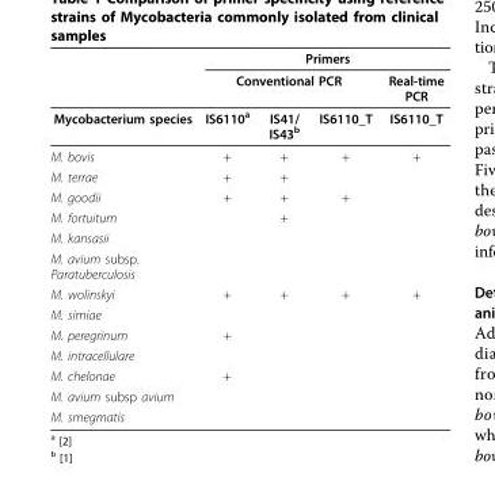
<table><thead><tr><td rowspan="3">Mycobacterium species</td><td colspan="4">Primers</td></tr><tr><td colspan="3">Conventional PCR</td><td rowspan="2">Real-time PCR IS6110_T</td></tr><tr><td>IS6110a</td><td>IS41/ IS43b</td><td>IS6110_T</td></tr></thead><tbody><tr><td>M. bovis</td><td>+</td><td>+</td><td>+</td><td>+</td></tr><tr><td>M. terrae</td><td>+</td><td>+</td><td></td><td></td></tr><tr><td>M. goodii</td><td>+</td><td>+</td><td>+</td><td></td></tr><tr><td>M. fortuitum</td><td></td><td>+</td><td></td><td></td></tr><tr><td colspan="5">M. kansasii</td></tr><tr><td colspan="5">M. avium subsp. Paratuberculosis</td></tr><tr><td>M. wolinskyi</td><td>+</td><td>+</td><td>+</td><td>+</td></tr><tr><td colspan="5">M. simiae</td></tr><tr><td>M. peregrinum</td><td>+</td><td></td><td></td><td></td></tr><tr><td colspan="5">M. intracellulare</td></tr><tr><td>M. chelonae</td><td>+</td><td></td><td></td><td></td></tr><tr><td colspan="5">M. avium subsp avium</td></tr><tr><td>M. smegmatis</td><td></td><td></td><td></td><td></td></tr></tbody></table>